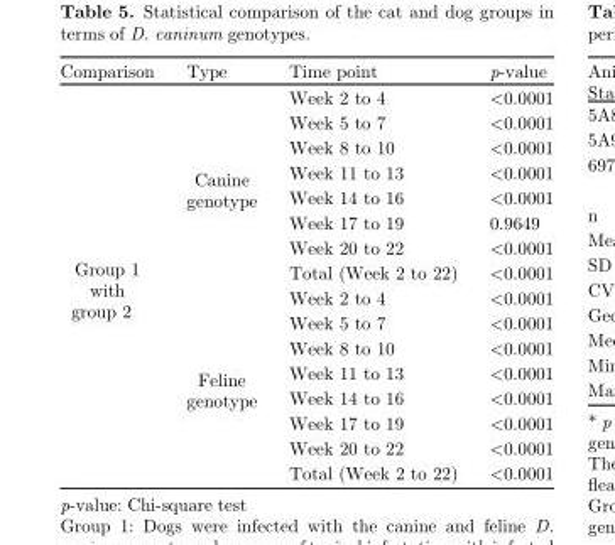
<table><thead><tr><td>Comparison</td><td>Type</td><td>Time point</td><td>p-value</td></tr></thead><tbody><tr><td rowspan="16">Group 1 with group 2</td><td rowspan="8">Canine genotype</td><td>Week 2 to 4</td><td>&lt;0.0001</td></tr><tr><td>Week 5 to 7</td><td>&lt;0.0001</td></tr><tr><td>Week 8 to 10</td><td>&lt;0.0001</td></tr><tr><td>Week 11 to 13</td><td>&lt;0.0001</td></tr><tr><td>Week 14 to 16</td><td>&lt;0.0001</td></tr><tr><td>Week 17 to 19</td><td>0.9649</td></tr><tr><td>Week 20 to 22</td><td>&lt;0.0001</td></tr><tr><td>Total (Week 2 to 22)</td><td>&lt;0.0001</td></tr><tr><td rowspan="8">Feline genotype</td><td>Week 2 to 4</td><td>&lt;0.0001</td></tr><tr><td>Week 5 to 7</td><td>&lt;0.0001</td></tr><tr><td>Week 8 to 10</td><td>&lt;0.0001</td></tr><tr><td>Week 11 to 13</td><td>&lt;0.0001</td></tr><tr><td>Week 14 to 16</td><td>&lt;0.0001</td></tr><tr><td>Week 17 to 19</td><td>&lt;0.0001</td></tr><tr><td>Week 20 to 22</td><td>&lt;0.0001</td></tr><tr><td>Total (Week 2 to 22)</td><td>&lt;0.0001</td></tr></tbody></table>